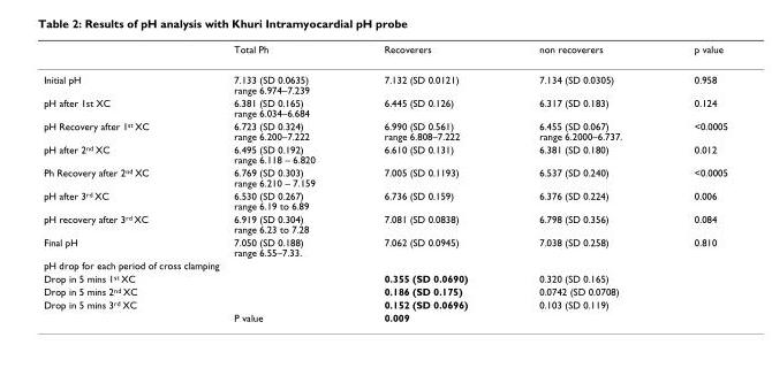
<table><thead><tr><td></td><td>Total Ph</td><td>Recoverers</td><td>non recoverers</td><td>p value</td></tr></thead><tbody><tr><td>Initial pH</td><td>7.133 (SD 0.0635) range 6.974–7.239</td><td>7.132 (SD 0.0121)</td><td>7.134 (SD 0.0305)</td><td>0.958</td></tr><tr><td>pH after 1st XC</td><td>6.381 (SD 0.165) range 6.034–6.684</td><td>6.445 (SD 0.126)</td><td>6.317 (SD 0.183)</td><td>0.124</td></tr><tr><td>pH Recovery after 1<sup>st</sup> XC</td><td>6.723 (SD 0.324) range 6.200–7.222</td><td>6.990 (SD 0.561) range 6.808–7.222</td><td>6.455 (SD 0.067) range 6.2000–6.737.</td><td>&lt;0.0005</td></tr><tr><td>pH after 2<sup>nd</sup> XC</td><td>6.495 (SD 0.192) range 6.118 – 6.820</td><td>6.610 (SD 0.131)</td><td>6.381 (SD 0.180)</td><td>0.012</td></tr><tr><td>Ph Recovery after 2<sup>nd</sup> XC</td><td>6.769 (SD 0.303) range 6.210 – 7.159</td><td>7.005 (SD 0.1193)</td><td>6.537 (SD 0.240)</td><td>&lt;0.0005</td></tr><tr><td>pH after 3<sup>rd</sup> XC</td><td>6.530 (SD 0.267) range 6.19 to 6.89</td><td>6.736 (SD 0.159)</td><td>6.376 (SD 0.224)</td><td>0.006</td></tr><tr><td>pH recovery after 3<sup>rd</sup> XC</td><td>6.919 (SD 0.304) range 6.23 to 7.28</td><td>7.081 (SD 0.0838)</td><td>6.798 (SD 0.356)</td><td>0.084</td></tr><tr><td>Final pH</td><td>7.050 (SD 0.188) range 6.55–7.33.</td><td>7.062 (SD 0.0945)</td><td>7.038 (SD 0.258)</td><td>0.810</td></tr><tr><td colspan="5">pH drop for each period of cross clamping</td></tr><tr><td>Drop in 5 mins 1<sup>st</sup> XC</td><td></td><td>0.355 (SD 0.0690)</td><td>0.320 (SD 0.165)</td><td></td></tr><tr><td>Drop in 5 mins 2<sup>nd</sup> XC</td><td></td><td>0.186 (SD 0.175)</td><td>0.0742 (SD 0.0708)</td><td></td></tr><tr><td rowspan="2">Drop in 5 mins 3<sup>rd</sup> XC</td><td></td><td>0.152 (SD 0.0696)</td><td>0.103 (SD 0.119)</td><td></td></tr><tr><td>P value</td><td>0.009</td><td></td><td></td></tr></tbody></table>